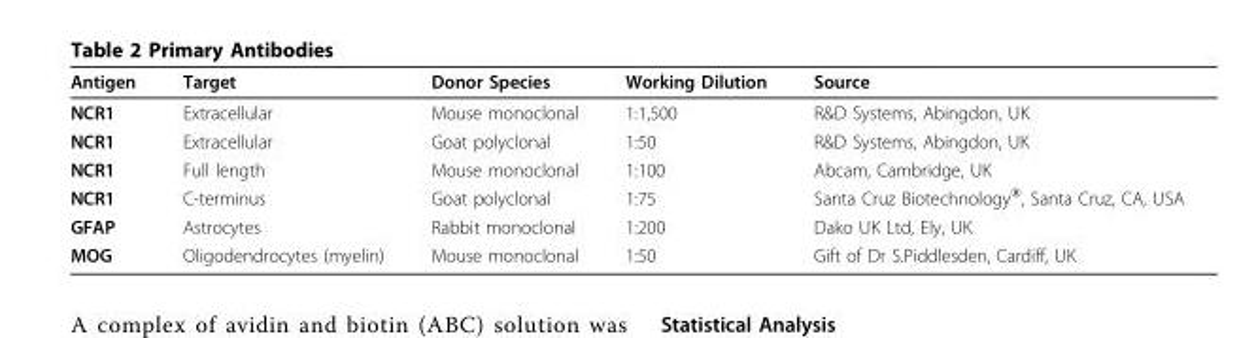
<table><thead><tr><td>Antigen</td><td>Target</td><td>Donor Species</td><td>Working Dilution</td><td>Source</td></tr></thead><tbody><tr><td>NCR1</td><td>Extracellular</td><td>Mouse monoclonal</td><td>1:1,500</td><td>R&amp;D Systems, Abingdon, UK</td></tr><tr><td>NCR1</td><td>Extracellular</td><td>Goat polyclonal</td><td>1:50</td><td>R&amp;D Systems, Abingdon, UK</td></tr><tr><td>NCR1</td><td>Full length</td><td>Mouse monoclonal</td><td>1:100</td><td>Abcam, Cambridge, UK</td></tr><tr><td>NCR1</td><td>C-terminus</td><td>Goat polyclonal</td><td>1:75</td><td>Santa Cruz Biotechnology<sup>®</sup>, Santa Cruz, CA, USA</td></tr><tr><td>GFAP</td><td>Astrocytes</td><td>Rabbit monoclonal</td><td>1:200</td><td>Dako UK Ltd, Ely, UK</td></tr><tr><td>MOG</td><td>Oligodendrocytes (myelin)</td><td>Mouse monoclonal</td><td>1:50</td><td>Gift of Dr S.Piddlesden, Cardiff, UK</td></tr></tbody></table>